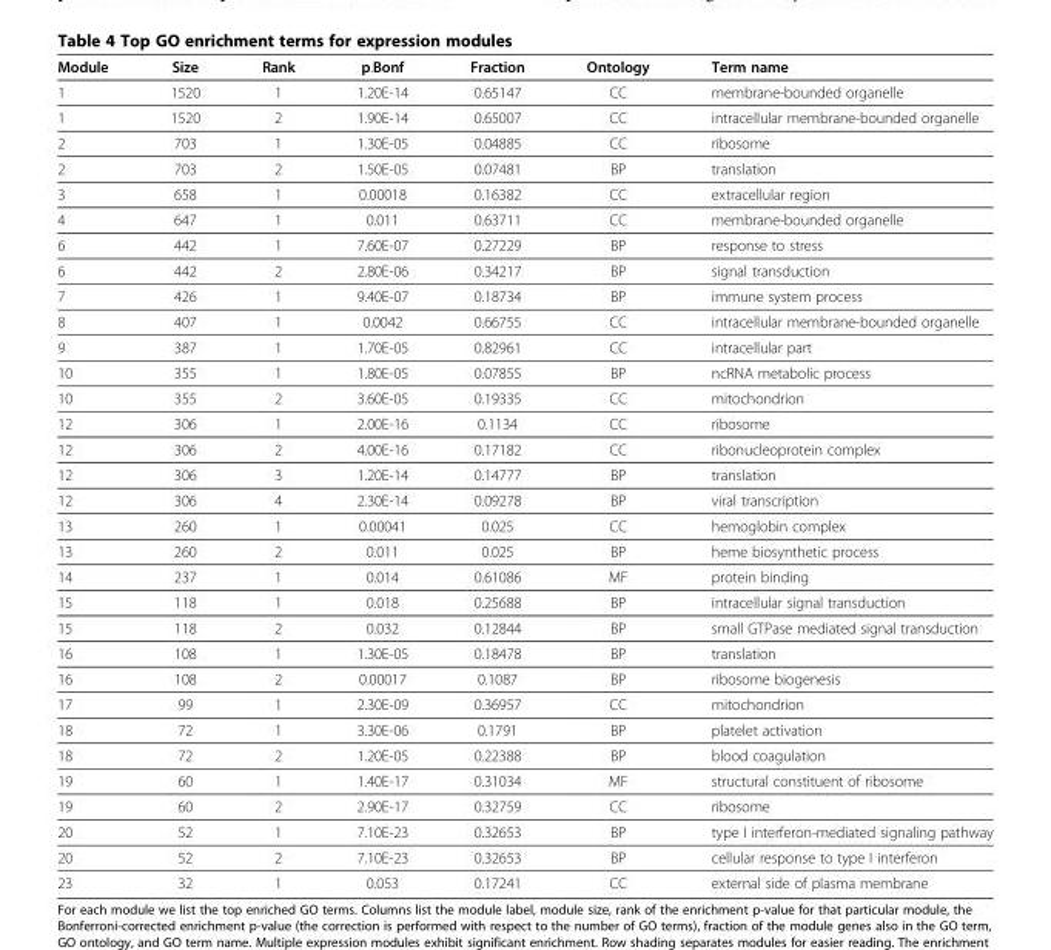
<table><thead><tr><td>Module</td><td>Size</td><td>Rank</td><td>p.Bonf</td><td>Fraction</td><td>Ontology</td><td>Term name</td></tr></thead><tbody><tr><td>1</td><td>1520</td><td>1</td><td>1.20E-14</td><td>0.65147</td><td>CC</td><td>membrane-bounded organelle</td></tr><tr><td>1</td><td>1520</td><td>2</td><td>1.90E-14</td><td>0.65007</td><td>CC</td><td>intracellular membrane-bounded organelle</td></tr><tr><td>2</td><td>703</td><td>1</td><td>1.30E-05</td><td>0.04885</td><td>CC</td><td>ribosome</td></tr><tr><td>2</td><td>703</td><td>2</td><td>1.50E-05</td><td>0.07481</td><td>BP</td><td>translation</td></tr><tr><td>3</td><td>658</td><td>1</td><td>0.00018</td><td>0.16382</td><td>CC</td><td>extracellular region</td></tr><tr><td>4</td><td>647</td><td>1</td><td>0.011</td><td>0.63711</td><td>CC</td><td>membrane-bounded organelle</td></tr><tr><td>6</td><td>442</td><td>1</td><td>7.60E-07</td><td>0.27229</td><td>BP</td><td>response to stress</td></tr><tr><td>6</td><td>442</td><td>2</td><td>2.80E-06</td><td>0.34217</td><td>BP</td><td>signal transduction</td></tr><tr><td>7</td><td>426</td><td>1</td><td>9.40E-07</td><td>0.18734</td><td>BP</td><td>immune system process</td></tr><tr><td>8</td><td>407</td><td>1</td><td>0.0042</td><td>0.66755</td><td>CC</td><td>intracellular membrane-bounded organelle</td></tr><tr><td>9</td><td>387</td><td>1</td><td>1.70E-05</td><td>0.82961</td><td>CC</td><td>intracellular part</td></tr><tr><td>10</td><td>355</td><td>1</td><td>1.80E-05</td><td>0.07855</td><td>BP</td><td>ncRNA metabolic process</td></tr><tr><td>10</td><td>355</td><td>2</td><td>3.60E-05</td><td>0.19335</td><td>CC</td><td>mitochondrion</td></tr><tr><td>12</td><td>306</td><td>1</td><td>2.00E-16</td><td>0.1134</td><td>CC</td><td>ribosome</td></tr><tr><td>12</td><td>306</td><td>2</td><td>4.00E-16</td><td>0.17182</td><td>CC</td><td>ribonucleoprotein complex</td></tr><tr><td>12</td><td>306</td><td>3</td><td>1.20E-14</td><td>0.14777</td><td>BP</td><td>translation</td></tr><tr><td>12</td><td>306</td><td>4</td><td>2.30E-14</td><td>0.09278</td><td>BP</td><td>viral transcription</td></tr><tr><td>13</td><td>260</td><td>1</td><td>0.00041</td><td>0.025</td><td>CC</td><td>hemoglobin complex</td></tr><tr><td>13</td><td>260</td><td>2</td><td>0.011</td><td>0.025</td><td>BP</td><td>heme biosynthetic process</td></tr><tr><td>14</td><td>237</td><td>1</td><td>0.014</td><td>0.61086</td><td>MF</td><td>protein binding</td></tr><tr><td>15</td><td>118</td><td>1</td><td>0.018</td><td>0.25688</td><td>BP</td><td>intracellular signal transduction</td></tr><tr><td>15</td><td>118</td><td>2</td><td>0.032</td><td>0.12844</td><td>BP</td><td>small GTPase mediated signal transduction</td></tr><tr><td>16</td><td>108</td><td>1</td><td>1.30E-05</td><td>0.18478</td><td>BP</td><td>translation</td></tr><tr><td>16</td><td>108</td><td>2</td><td>0.00017</td><td>0.1087</td><td>BP</td><td>ribosome biogenesis</td></tr><tr><td>17</td><td>99</td><td>1</td><td>2.30E-09</td><td>0.36957</td><td>CC</td><td>mitochondrion</td></tr><tr><td>18</td><td>72</td><td>1</td><td>3.30E-06</td><td>0.1791</td><td>BP</td><td>platelet activation</td></tr><tr><td>18</td><td>72</td><td>2</td><td>1.20E-05</td><td>0.22388</td><td>BP</td><td>blood coagulation</td></tr><tr><td>19</td><td>60</td><td>1</td><td>1.40E-17</td><td>0.31034</td><td>MF</td><td>structural constituent of ribosome</td></tr><tr><td>19</td><td>60</td><td>2</td><td>2.90E-17</td><td>0.32759</td><td>CC</td><td>ribosome</td></tr><tr><td>20</td><td>52</td><td>1</td><td>7.10E-23</td><td>0.32653</td><td>BP</td><td>type I interferon-mediated signaling pathway</td></tr><tr><td>20</td><td>52</td><td>2</td><td>7.10E-23</td><td>0.32653</td><td>BP</td><td>cellular response to type I interferon</td></tr><tr><td>23</td><td>32</td><td>1</td><td>0.053</td><td>0.17241</td><td>CC</td><td>external side of plasma membrane</td></tr></tbody></table>